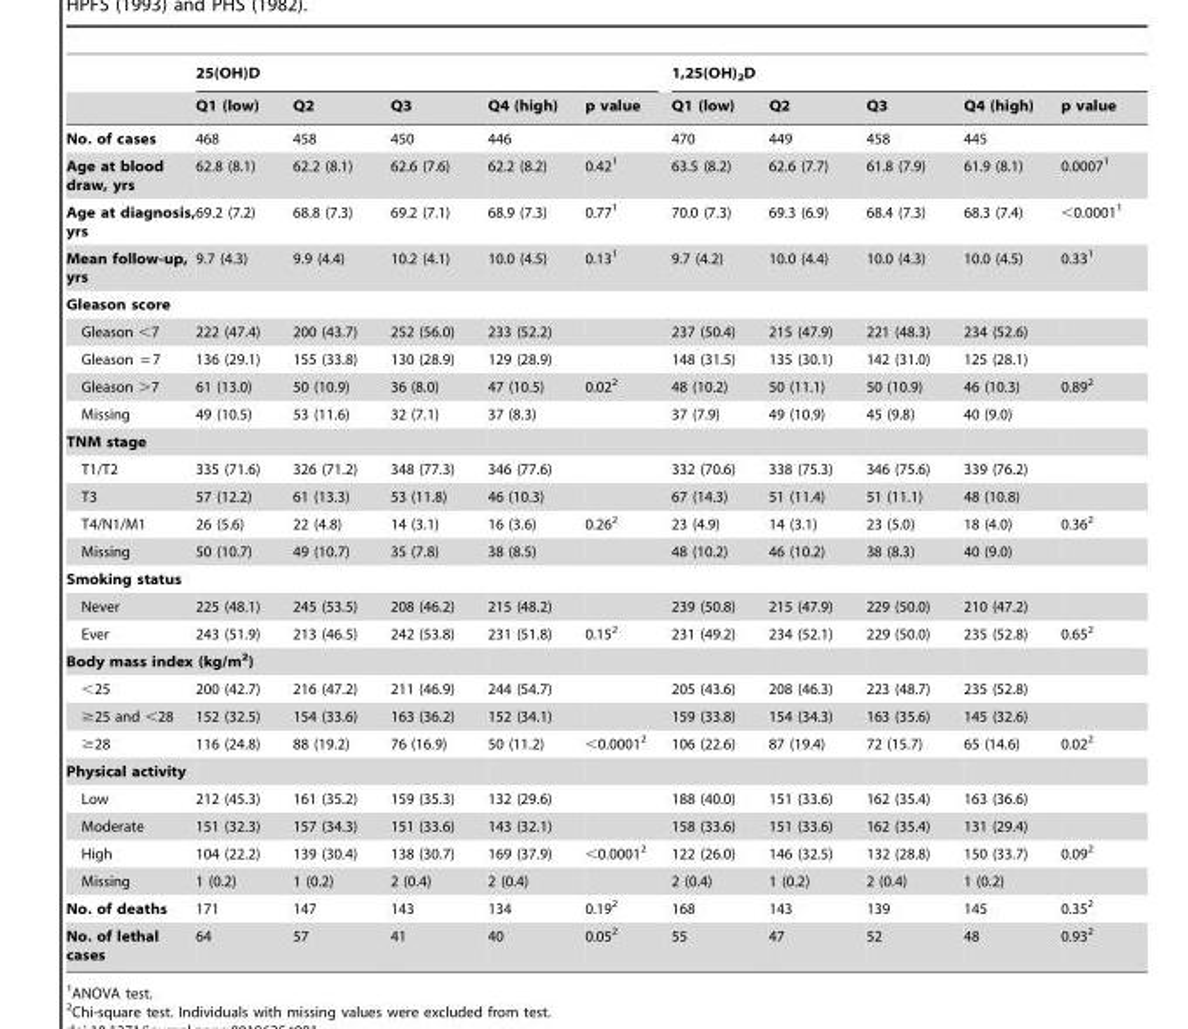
<table><thead><tr><td rowspan="2"></td><td colspan="5">25(OH)D</td><td colspan="5">1,25(OH)<sub>2</sub>D</td></tr><tr><td>Q1 (low)</td><td>Q2</td><td>Q3</td><td>Q4 (high)</td><td>p value</td><td>Q1 (low)</td><td>Q2</td><td>Q3</td><td>Q4 (high)</td><td>p value</td></tr></thead><tbody><tr><td>No. of cases</td><td>468</td><td>458</td><td>450</td><td>446</td><td></td><td>470</td><td>449</td><td>458</td><td>445</td><td></td></tr><tr><td>Age at blood draw, yrs</td><td>62.8 (8.1)</td><td>62.2 (8.1)</td><td>62.6 (7.6)</td><td>62.2 (8.2)</td><td>0.42<sup>1</sup></td><td>63.5 (8.2)</td><td>62.6 (7.7)</td><td>61.8 (7.9)</td><td>61.9 (8.1)</td><td>0.0007<sup>1</sup></td></tr><tr><td>Age at diagnosis, yrs</td><td>69.2 (7.2)</td><td>68.8 (7.3)</td><td>69.2 (7.1)</td><td>68.9 (7.3)</td><td>0.77<sup>1</sup></td><td>70.0 (7.3)</td><td>69.3 (6.9)</td><td>68.4 (7.3)</td><td>68.3 (7.4)</td><td>&lt;0.0001<sup>1</sup></td></tr><tr><td>Mean follow-up, yrs</td><td>9.7 (4.3)</td><td>9.9 (4.4)</td><td>10.2 (4.1)</td><td>10.0 (4.5)</td><td>0.13<sup>1</sup></td><td>9.7 (4.2)</td><td>10.0 (4.4)</td><td>10.0 (4.3)</td><td>10.0 (4.5)</td><td>0.33<sup>1</sup></td></tr><tr><td colspan="11">Gleason score</td></tr><tr><td>Gleason &lt;7</td><td>222 (47.4)</td><td>200 (43.7)</td><td>252 (56.0)</td><td>233 (52.2)</td><td></td><td>237 (50.4)</td><td>215 (47.9)</td><td>221 (48.3)</td><td>234 (52.6)</td><td></td></tr><tr><td>Gleason = 7</td><td>136 (29.1)</td><td>155 (33.8)</td><td>130 (28.9)</td><td>129 (28.9)</td><td></td><td>148 (31.5)</td><td>135 (30.1)</td><td>142 (31.0)</td><td>125 (28.1)</td><td></td></tr><tr><td>Gleason &gt;7</td><td>61 (13.0)</td><td>50 (10.9)</td><td>36 (8.0)</td><td>47 (10.5)</td><td>0.02<sup>2</sup></td><td>48 (10.2)</td><td>50 (11.1)</td><td>50 (10.9)</td><td>46 (10.3)</td><td>0.89<sup>2</sup></td></tr><tr><td>Missing</td><td>49 (10.5)</td><td>53 (11.6)</td><td>32 (7.1)</td><td>37 (8.3)</td><td></td><td>37 (7.9)</td><td>49 (10.9)</td><td>45 (9.8)</td><td>40 (9.0)</td><td></td></tr><tr><td colspan="11">TNM stage</td></tr><tr><td>T1/T2</td><td>335 (71.6)</td><td>326 (71.2)</td><td>348 (77.3)</td><td>346 (77.6)</td><td></td><td>332 (70.6)</td><td>338 (75.3)</td><td>346 (75.6)</td><td>339 (76.2)</td><td></td></tr><tr><td>T3</td><td>57 (12.2)</td><td>61 (13.3)</td><td>53 (11.8)</td><td>46 (10.3)</td><td></td><td>67 (14.3)</td><td>51 (11.4)</td><td>51 (11.1)</td><td>48 (10.8)</td><td></td></tr><tr><td>T4/N1/M1</td><td>26 (5.6)</td><td>22 (4.8)</td><td>14 (3.1)</td><td>16 (3.6)</td><td>0.26<sup>2</sup></td><td>23 (4.9)</td><td>14 (3.1)</td><td>23 (5.0)</td><td>18 (4.0)</td><td>0.36<sup>2</sup></td></tr><tr><td>Missing</td><td>50 (10.7)</td><td>49 (10.7)</td><td>35 (7.8)</td><td>38 (8.5)</td><td></td><td>48 (10.2)</td><td>46 (10.2)</td><td>38 (8.3)</td><td>40 (9.0)</td><td></td></tr><tr><td colspan="11">Smoking status</td></tr><tr><td>Never</td><td>225 (48.1)</td><td>245 (53.5)</td><td>208 (46.2)</td><td>215 (48.2)</td><td></td><td>239 (50.8)</td><td>215 (47.9)</td><td>229 (50.0)</td><td>210 (47.2)</td><td></td></tr><tr><td>Ever</td><td>243 (51.9)</td><td>213 (46.5)</td><td>242 (53.8)</td><td>231 (51.8)</td><td>0.15<sup>2</sup></td><td>231 (49.2)</td><td>234 (52.1)</td><td>229 (50.0)</td><td>235 (52.8)</td><td>0.65<sup>2</sup></td></tr><tr><td colspan="11">Body mass index (kg/m2)</td></tr><tr><td>&lt;25</td><td>200 (42.7)</td><td>216 (47.2)</td><td>211 (46.9)</td><td>244 (54.7)</td><td></td><td>205 (43.6)</td><td>208 (46.3)</td><td>223 (48.7)</td><td>235 (52.8)</td><td></td></tr><tr><td>≥25 and &lt;28</td><td>152 (32.5)</td><td>154 (33.6)</td><td>163 (36.2)</td><td>152 (34.1)</td><td></td><td>159 (33.8)</td><td>154 (34.3)</td><td>163 (35.6)</td><td>145 (32.6)</td><td></td></tr><tr><td>≥28</td><td>116 (24.8)</td><td>88 (19.2)</td><td>76 (16.9)</td><td>50 (11.2)</td><td>&lt;0.0001<sup>2</sup></td><td>106 (22.6)</td><td>87 (19.4)</td><td>72 (15.7)</td><td>65 (14.6)</td><td>0.02<sup>2</sup></td></tr><tr><td colspan="11">Physical activity</td></tr><tr><td>Low</td><td>212 (45.3)</td><td>161 (35.2)</td><td>159 (35.3)</td><td>132 (29.6)</td><td></td><td>188 (40.0)</td><td>151 (33.6)</td><td>162 (35.4)</td><td>163 (36.6)</td><td></td></tr><tr><td>Moderate</td><td>151 (32.3)</td><td>157 (34.3)</td><td>151 (33.6)</td><td>143 (32.1)</td><td></td><td>158 (33.6)</td><td>151 (33.6)</td><td>162 (35.4)</td><td>131 (29.4)</td><td></td></tr><tr><td>High</td><td>104 (22.2)</td><td>139 (30.4)</td><td>138 (30.7)</td><td>169 (37.9)</td><td>&lt;0.0001<sup>2</sup></td><td>122 (26.0)</td><td>146 (32.5)</td><td>132 (28.8)</td><td>150 (33.7)</td><td>0.09<sup>2</sup></td></tr><tr><td>Missing</td><td>1 (0.2)</td><td>1 (0.2)</td><td>2 (0.4)</td><td>2 (0.4)</td><td></td><td>2 (0.4)</td><td>1 (0.2)</td><td>2 (0.4)</td><td>1 (0.2)</td><td></td></tr><tr><td>No. of deaths</td><td>171</td><td>147</td><td>143</td><td>134</td><td>0.19<sup>2</sup></td><td>168</td><td>143</td><td>139</td><td>145</td><td>0.35<sup>2</sup></td></tr><tr><td>No. of lethal cases</td><td>64</td><td>57</td><td>41</td><td>40</td><td>0.05<sup>2</sup></td><td>55</td><td>47</td><td>52</td><td>48</td><td>0.93<sup>2</sup></td></tr></tbody></table>